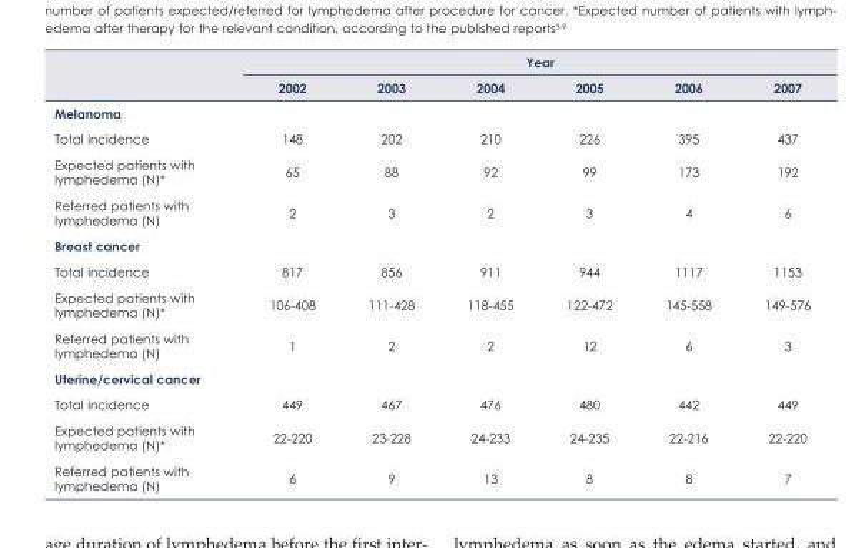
<table><thead><tr><td rowspan="2"></td><td colspan="6">Year</td></tr><tr><td>2002</td><td>2003</td><td>2004</td><td>2005</td><td>2006</td><td>2007</td></tr></thead><tbody><tr><td colspan="7">Melanoma</td></tr><tr><td>Total incidence</td><td>148</td><td>202</td><td>210</td><td>226</td><td>395</td><td>437</td></tr><tr><td>Expected patients with lymphedema (N)*</td><td>65</td><td>88</td><td>92</td><td>99</td><td>173</td><td>192</td></tr><tr><td>Referred patients with lymphedema (N)</td><td>2</td><td>3</td><td>2</td><td>3</td><td>4</td><td>6</td></tr><tr><td colspan="7">Breast cancer</td></tr><tr><td>Total incidence</td><td>817</td><td>856</td><td>911</td><td>944</td><td>1117</td><td>1153</td></tr><tr><td>Expected patients with lymphedema (N)*</td><td>106-408</td><td>111-428</td><td>118-455</td><td>122-472</td><td>145-558</td><td>149-576</td></tr><tr><td>Referred patients with lymphedema (N)</td><td>1</td><td>2</td><td>2</td><td>12</td><td>6</td><td>3</td></tr><tr><td colspan="7">Uterine/cervical cancer</td></tr><tr><td>Total incidence</td><td>449</td><td>467</td><td>476</td><td>480</td><td>442</td><td>449</td></tr><tr><td>Expected patients with lymphedema (N)*</td><td>22-220</td><td>23-228</td><td>24-233</td><td>24-235</td><td>22-216</td><td>22-220</td></tr><tr><td>Referred patients with lymphedema (N)</td><td>6</td><td>9</td><td>13</td><td>8</td><td>8</td><td>7</td></tr></tbody></table>